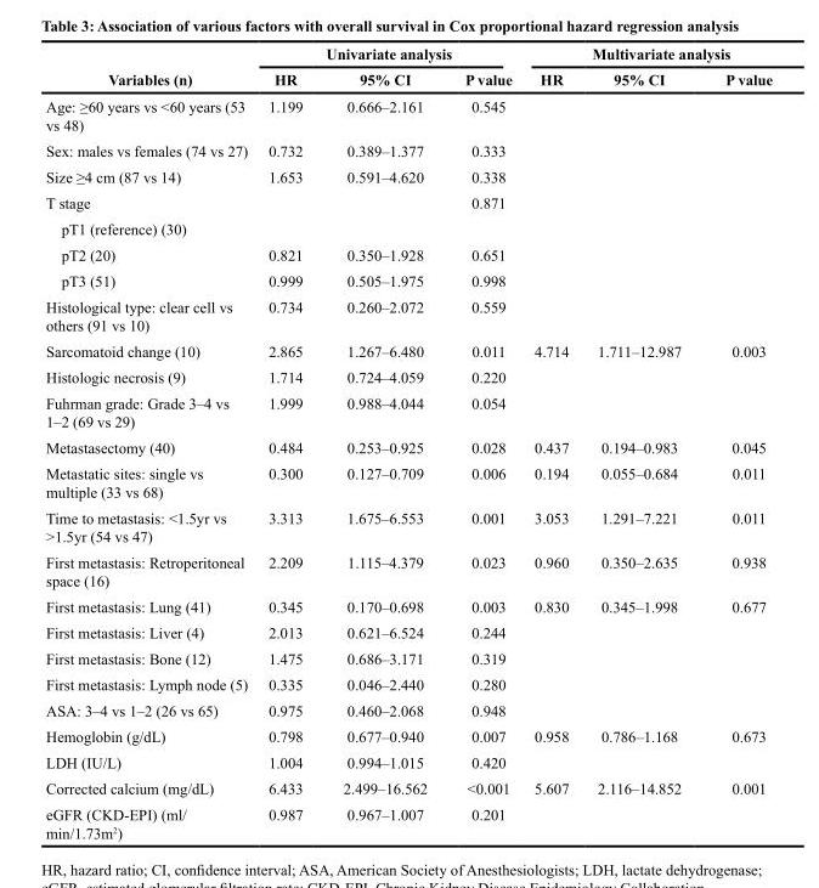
<table><thead><tr><td rowspan="2">Variables (n)</td><td colspan="3">Univariate analysis</td><td colspan="3">Multivariate analysis</td></tr><tr><td>HR</td><td>95% CI</td><td>P value</td><td>HR</td><td>95% CI</td><td>P value</td></tr></thead><tbody><tr><td>Age: ≥60 years vs &lt;60 years (53 vs 48)</td><td>1.199</td><td>0.666–2.161</td><td>0.545</td><td></td><td></td><td></td></tr><tr><td>Sex: males vs females (74 vs 27)</td><td>0.732</td><td>0.389–1.377</td><td>0.333</td><td></td><td></td><td></td></tr><tr><td>Size ≥4 cm (87 vs 14)</td><td>1.653</td><td>0.591–4.620</td><td>0.338</td><td></td><td></td><td></td></tr><tr><td>T stage</td><td></td><td></td><td>0.871</td><td></td><td></td><td></td></tr><tr><td colspan="7">pT1 (reference) (30)</td></tr><tr><td>pT2 (20)</td><td>0.821</td><td>0.350–1.928</td><td>0.651</td><td></td><td></td><td></td></tr><tr><td>pT3 (51)</td><td>0.999</td><td>0.505–1.975</td><td>0.998</td><td></td><td></td><td></td></tr><tr><td>Histological type: clear cell vs others (91 vs 10)</td><td>0.734</td><td>0.260–2.072</td><td>0.559</td><td></td><td></td><td></td></tr><tr><td>Sarcomatoid change (10)</td><td>2.865</td><td>1.267–6.480</td><td>0.011</td><td>4.714</td><td>1.711–12.987</td><td>0.003</td></tr><tr><td>Histologic necrosis (9)</td><td>1.714</td><td>0.724–4.059</td><td>0.220</td><td></td><td></td><td></td></tr><tr><td>Fuhrman grade: Grade 3–4 vs 1–2 (69 vs 29)</td><td>1.999</td><td>0.988–4.044</td><td>0.054</td><td></td><td></td><td></td></tr><tr><td>Metastasectomy (40)</td><td>0.484</td><td>0.253–0.925</td><td>0.028</td><td>0.437</td><td>0.194–0.983</td><td>0.045</td></tr><tr><td>Metastatic sites: single vs multiple (33 vs 68)</td><td>0.300</td><td>0.127–0.709</td><td>0.006</td><td>0.194</td><td>0.055–0.684</td><td>0.011</td></tr><tr><td>Time to metastasis: &lt;1.5yr vs &gt;1.5yr (54 vs 47)</td><td>3.313</td><td>1.675–6.553</td><td>0.001</td><td>3.053</td><td>1.291–7.221</td><td>0.011</td></tr><tr><td>First metastasis: Retroperitoneal space (16)</td><td>2.209</td><td>1.115–4.379</td><td>0.023</td><td>0.960</td><td>0.350–2.635</td><td>0.938</td></tr><tr><td>First metastasis: Lung (41)</td><td>0.345</td><td>0.170–0.698</td><td>0.003</td><td>0.830</td><td>0.345–1.998</td><td>0.677</td></tr><tr><td>First metastasis: Liver (4)</td><td>2.013</td><td>0.621–6.524</td><td>0.244</td><td></td><td></td><td></td></tr><tr><td>First metastasis: Bone (12)</td><td>1.475</td><td>0.686–3.171</td><td>0.319</td><td></td><td></td><td></td></tr><tr><td>First metastasis: Lymph node (5)</td><td>0.335</td><td>0.046–2.440</td><td>0.280</td><td></td><td></td><td></td></tr><tr><td>ASA: 3–4 vs 1–2 (26 vs 65)</td><td>0.975</td><td>0.460–2.068</td><td>0.948</td><td></td><td></td><td></td></tr><tr><td>Hemoglobin (g/dL)</td><td>0.798</td><td>0.677–0.940</td><td>0.007</td><td>0.958</td><td>0.786–1.168</td><td>0.673</td></tr><tr><td>LDH (IU/L)</td><td>1.004</td><td>0.994–1.015</td><td>0.420</td><td></td><td></td><td></td></tr><tr><td>Corrected calcium (mg/dL)</td><td>6.433</td><td>2.499–16.562</td><td>&lt;0.001</td><td>5.607</td><td>2.116–14.852</td><td>0.001</td></tr><tr><td>eGFR (CKD-EPI) (ml/ min/1.73m<sup>2</sup>)</td><td>0.987</td><td>0.967–1.007</td><td>0.201</td><td></td><td></td><td></td></tr></tbody></table>